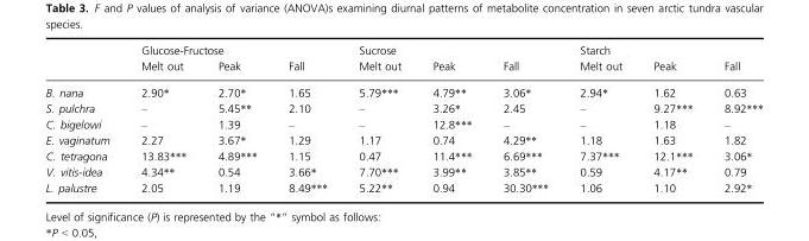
<table><thead><tr><td rowspan="2"></td><td colspan="3">Glucose-Fructose</td><td colspan="3">Sucrose</td><td colspan="3">Starch</td></tr><tr><td>Melt out</td><td>Peak</td><td>Fall</td><td>Melt out</td><td>Peak</td><td>Fall</td><td>Melt out</td><td>Peak</td><td>Fall</td></tr></thead><tbody><tr><td>B. nana</td><td>2.90*</td><td>2.70*</td><td>1.65</td><td>5.79***</td><td>4.79**</td><td>3.06*</td><td>2.94*</td><td>1.62</td><td>0.63</td></tr><tr><td>S. pulchra</td><td>–</td><td>5.45**</td><td>2.10</td><td>–</td><td>3.26*</td><td>2.45</td><td>–</td><td>9.27***</td><td>8.92***</td></tr><tr><td>C. bigelowi</td><td>–</td><td>1.39</td><td>–</td><td>–</td><td>12.8***</td><td>–</td><td>–</td><td>1.18</td><td>–</td></tr><tr><td>E. vaginatum</td><td>2.27</td><td>3.67*</td><td>1.29</td><td>1.17</td><td>0.74</td><td>4.29**</td><td>1.18</td><td>1.63</td><td>1.82</td></tr><tr><td>C. tetragona</td><td>13.83***</td><td>4.89***</td><td>1.15</td><td>0.47</td><td>11.4***</td><td>6.69***</td><td>7.37***</td><td>12.1***</td><td>3.06*</td></tr><tr><td>V. vitis-idea</td><td>4.34**</td><td>0.54</td><td>3.66*</td><td>7.70***</td><td>3.99**</td><td>3.85**</td><td>0.59</td><td>4.17**</td><td>0.79</td></tr><tr><td>L. palustre</td><td>2.05</td><td>1.19</td><td>8.49***</td><td>5.22**</td><td>0.94</td><td>30.30***</td><td>1.06</td><td>1.10</td><td>2.92*</td></tr></tbody></table>